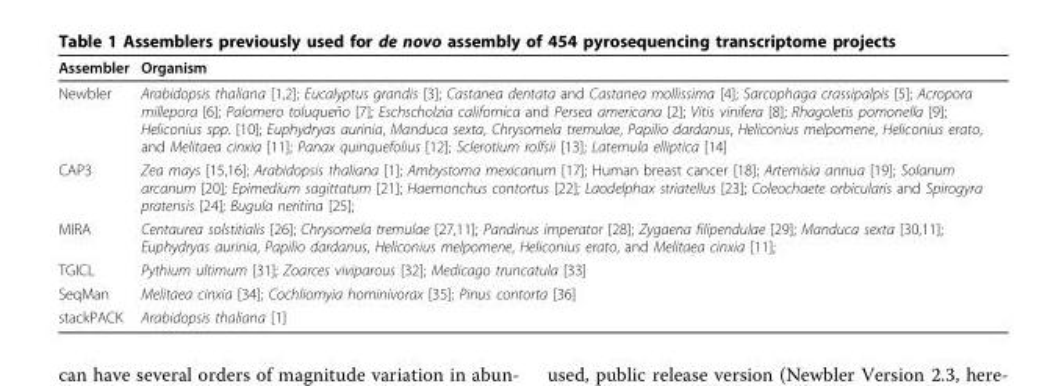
<table><thead><tr><td>Assembler</td><td>Organism</td></tr></thead><tbody><tr><td>Newbler</td><td>Arabidopsis thaliana [1,2]; Eucalyptus grandis [3]; Castanea dentata and Castanea mollissima [4]; Sarcophaga crassipalpis [5]; Acropora millepora [6]; Palomero toluqueño [7]; Eschscholzia californica and Persea americana [2]; Vitis vinifera [8]; Rhagoletis pomonella [9]; Heliconius spp. [10]; Euphydryas aurinia, Manduca sexta, Chrysomela tremulae, Papilio dardanus, Heliconius melpomene, Heliconius erato, and Melitaea cinxia [11]; Panax quinquefolius [12]; Sclerotium rolfsii [13]; Laternula elliptica [14]</td></tr><tr><td>CAP3</td><td>Zea mays [15,16]; Arabidopsis thaliana [1]; Ambystoma mexicanum [17]; Human breast cancer [18]; Artemisia annua [19]; Solanum arcanum [20]; Epimedium sagittatum [21]; Haemonchus contortus [22]; Laodelphax striatellus [23]; Coleochaete orbicularis and Spirogyra pratensis [24]; Bugula neritina [25];</td></tr><tr><td>MIRA</td><td>Centaurea solstitialis [26]; Chrysomela tremulae [27,11]; Pandinus imperator [28]; Zygaena filipendulae [29]; Manduca sexta [30,11]; Euphydryas aurinia, Papilio dardanus, Heliconius melpomene, Heliconius erato, and Melitaea cinxia [11];</td></tr><tr><td>TGICL</td><td>Pythium ultimum [31]; Zoarces viviparous [32]; Medicago truncatula [33]</td></tr><tr><td>SeqMan</td><td>Melitaea cinxia [34]; Cochliomyia hominivorax [35]; Pinus contorta [36]</td></tr><tr><td>stackPACK</td><td>Arabidopsis thaliana [1]</td></tr></tbody></table>